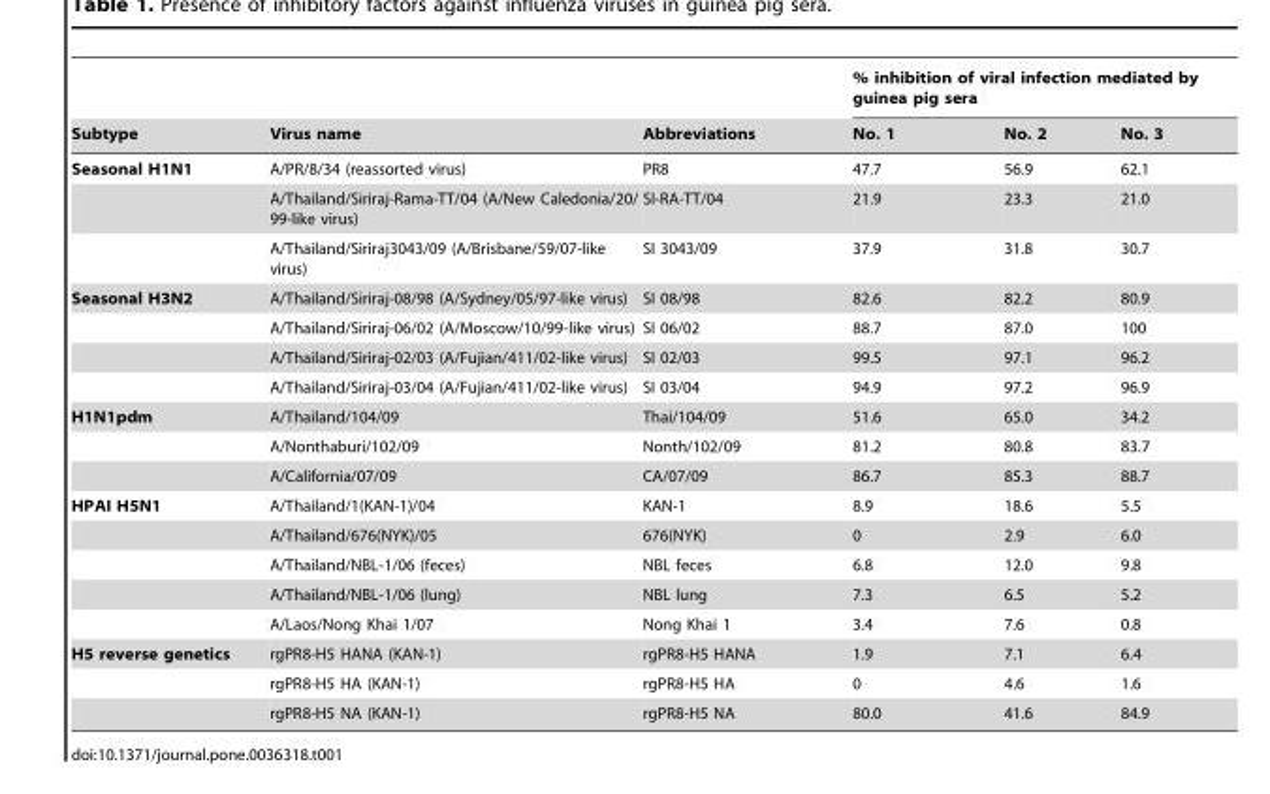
<table><thead><tr><td rowspan="2">Subtype</td><td rowspan="2">Virus name</td><td rowspan="2">Abbreviations</td><td colspan="3">% inhibition of viral infection mediated by guinea pig sera</td></tr><tr><td>No. 1</td><td>No. 2</td><td>No. 3</td></tr></thead><tbody><tr><td rowspan="3">Seasonal H1N1</td><td>A/PR/8/34 (reassorted virus)</td><td>PR8</td><td>47.7</td><td>56.9</td><td>62.1</td></tr><tr><td>A/Thailand/Siriraj-Rama-TT/04 (A/New Caledonia/20/ 99-like virus)</td><td>SI-RA-TT/04</td><td>21.9</td><td>23.3</td><td>21.0</td></tr><tr><td>A/Thailand/Siriraj3043/09 (A/Brisbane/59/07-like virus)</td><td>SI 3043/09</td><td>37.9</td><td>31.8</td><td>30.7</td></tr><tr><td rowspan="4">Seasonal H3N2</td><td>A/Thailand/Siriraj-08/98 (A/Sydney/05/97-like virus)</td><td>SI 08/98</td><td>82.6</td><td>82.2</td><td>80.9</td></tr><tr><td>A/Thailand/Siriraj-06/02 (A/Moscow/10/99-like virus)</td><td>SI 06/02</td><td>88.7</td><td>87.0</td><td>100</td></tr><tr><td>A/Thailand/Siriraj-02/03 (A/Fujian/411/02-like virus)</td><td>SI 02/03</td><td>99.5</td><td>97.1</td><td>96.2</td></tr><tr><td>A/Thailand/Siriraj-03/04 (A/Fujian/411/02-like virus)</td><td>SI 03/04</td><td>94.9</td><td>97.2</td><td>96.9</td></tr><tr><td rowspan="3">H1N1pdm</td><td>A/Thailand/104/09</td><td>Thai/104/09</td><td>51.6</td><td>65.0</td><td>34.2</td></tr><tr><td>A/Nonthaburi/102/09</td><td>Nonth/102/09</td><td>81.2</td><td>80.8</td><td>83.7</td></tr><tr><td>A/California/07/09</td><td>CA/07/09</td><td>86.7</td><td>85.3</td><td>88.7</td></tr><tr><td rowspan="5">HPAI H5N1</td><td>A/Thailand/1(KAN-1)/04</td><td>KAN-1</td><td>8.9</td><td>18.6</td><td>5.5</td></tr><tr><td>A/Thailand/676(NYK)/05</td><td>676(NYK)</td><td>0</td><td>2.9</td><td>6.0</td></tr><tr><td>A/Thailand/NBL-1/06 (feces)</td><td>NBL feces</td><td>6.8</td><td>12.0</td><td>9.8</td></tr><tr><td>A/Thailand/NBL-1/06 (lung)</td><td>NBL lung</td><td>7.3</td><td>6.5</td><td>5.2</td></tr><tr><td>A/Laos/Nong Khai 1/07</td><td>Nong Khai 1</td><td>3.4</td><td>7.6</td><td>0.8</td></tr><tr><td rowspan="3">H5 reverse genetics</td><td>rgPR8-H5 HANA (KAN-1)</td><td>rgPR8-H5 HANA</td><td>1.9</td><td>7.1</td><td>6.4</td></tr><tr><td>rgPR8-H5 HA (KAN-1)</td><td>rgPR8-H5 HA</td><td>0</td><td>4.6</td><td>1.6</td></tr><tr><td>rgPR8-H5 NA (KAN-1)</td><td>rgPR8-H5 NA</td><td>80.0</td><td>41.6</td><td>84.9</td></tr></tbody></table>